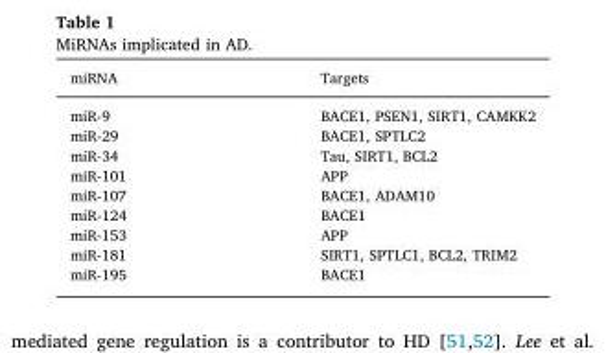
<table><thead><tr><td>miRNA</td><td>Targets</td></tr></thead><tbody><tr><td>miR-9</td><td>BACE1, PSEN1, SIRT1, CAMKK2</td></tr><tr><td>miR-29</td><td>BACE1, SPTLC2</td></tr><tr><td>miR-34</td><td>Tau, SIRT1, BCL2</td></tr><tr><td>miR-101</td><td>APP</td></tr><tr><td>miR-107</td><td>BACE1, ADAM10</td></tr><tr><td>miR-124</td><td>BACE1</td></tr><tr><td>miR-153</td><td>APP</td></tr><tr><td>miR-181</td><td>SIRT1, SPTLC1, BCL2, TRIM2</td></tr><tr><td>miR-195</td><td>BACE1</td></tr></tbody></table>